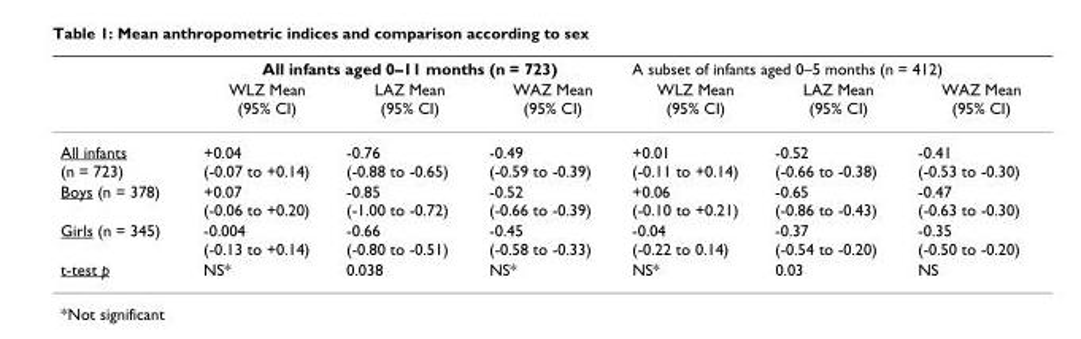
<table><thead><tr><td rowspan="2"></td><td colspan="3">All infants aged 0–11 months (n = 723)</td><td colspan="3">A subset of infants aged 0–5 months (n = 412)</td></tr><tr><td>WLZ Mean (95% CI)</td><td>LAZ Mean (95% CI)</td><td>WAZ Mean (95% CI)</td><td>WLZ Mean (95% CI)</td><td>LAZ Mean (95% CI)</td><td>WAZ Mean (95% CI)</td></tr></thead><tbody><tr><td>All infants (n = 723)</td><td>+0.04 (-0.07 to +0.14)</td><td>-0.76 (-0.88 to -0.65)</td><td>-0.49 (-0.59 to -0.39)</td><td>+0.01 (-0.11 to +0.14)</td><td>-0.52 (-0.66 to -0.38)</td><td>-0.41 (-0.53 to -0.30)</td></tr><tr><td>Boys (n = 378)</td><td>+0.07 (-0.06 to +0.20)</td><td>-0.85 (-1.00 to -0.72)</td><td>-0.52 (-0.66 to -0.39)</td><td>+0.06 (-0.10 to +0.21)</td><td>-0.65 (-0.86 to -0.43)</td><td>-0.47 (-0.63 to -0.30)</td></tr><tr><td>Girls (n = 345)</td><td>-0.004 (-0.13 to +0.14)</td><td>-0.66 (-0.80 to -0.51)</td><td>-0.45 (-0.58 to -0.33)</td><td>-0.04 (-0.22 to 0.14)</td><td>-0.37 (-0.54 to -0.20)</td><td>-0.35 (-0.50 to -0.20)</td></tr><tr><td>t-test p</td><td>NS*</td><td>0.038</td><td>NS*</td><td>NS*</td><td>0.03</td><td>NS</td></tr></tbody></table>